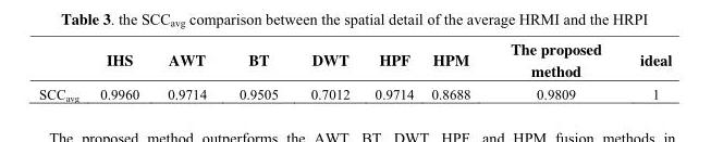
<table><thead><tr><td></td><td>IHS</td><td>AWT</td><td>BT</td><td>DWT</td><td>HPF</td><td>HPM</td><td>The proposed method</td><td>ideal</td></tr></thead><tbody><tr><td>SCC<sub>avg</sub></td><td>0.9960</td><td>0.9714</td><td>0.9505</td><td>0.7012</td><td>0.9714</td><td>0.8688</td><td>0.9809</td><td>1</td></tr></tbody></table>